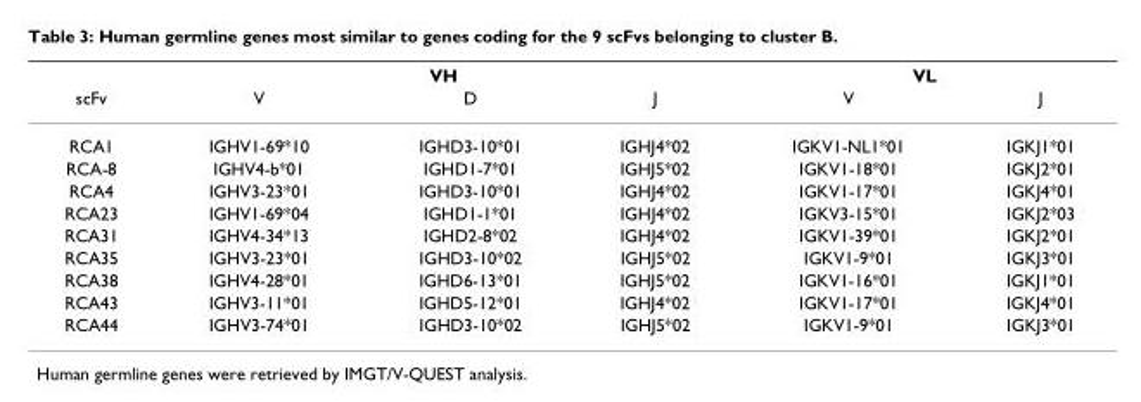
<table><thead><tr><td rowspan="2">scFv</td><td colspan="3">VH</td><td colspan="2">VL</td></tr><tr><td>V</td><td>D</td><td>J</td><td>V</td><td>J</td></tr></thead><tbody><tr><td>RCA1</td><td>IGHV1-69*10</td><td>IGHD3-10*01</td><td>IGHJ4*02</td><td>IGKV1-NL1*01</td><td>IGKJ1*01</td></tr><tr><td>RCA-8</td><td>IGHV4-b*01</td><td>IGHD1-7*01</td><td>IGHJ5*02</td><td>IGKV1-18*01</td><td>IGKJ2*01</td></tr><tr><td>RCA4</td><td>IGHV3-23*01</td><td>IGHD3-10*01</td><td>IGHJ4*02</td><td>IGKV1-17*01</td><td>IGKJ4*01</td></tr><tr><td>RCA23</td><td>IGHV1-69*04</td><td>IGHD1-1*01</td><td>IGHJ4*02</td><td>IGKV3-15*01</td><td>IGKJ2*03</td></tr><tr><td>RCA31</td><td>IGHV4-34*13</td><td>IGHD2-8*02</td><td>IGHJ4*02</td><td>IGKV1-39*01</td><td>IGKJ2*01</td></tr><tr><td>RCA35</td><td>IGHV3-23*01</td><td>IGHD3-10*02</td><td>IGHJ5*02</td><td>IGKV1-9*01</td><td>IGKJ3*01</td></tr><tr><td>RCA38</td><td>IGHV4-28*01</td><td>IGHD6-13*01</td><td>IGHJ5*02</td><td>IGKV1-16*01</td><td>IGKJ1*01</td></tr><tr><td>RCA43</td><td>IGHV3-11*01</td><td>IGHD5-12*01</td><td>IGHJ4*02</td><td>IGKV1-17*01</td><td>IGKJ4*01</td></tr><tr><td>RCA44</td><td>IGHV3-74*01</td><td>IGHD3-10*02</td><td>IGHJ5*02</td><td>IGKV1-9*01</td><td>IGKJ3*01</td></tr></tbody></table>